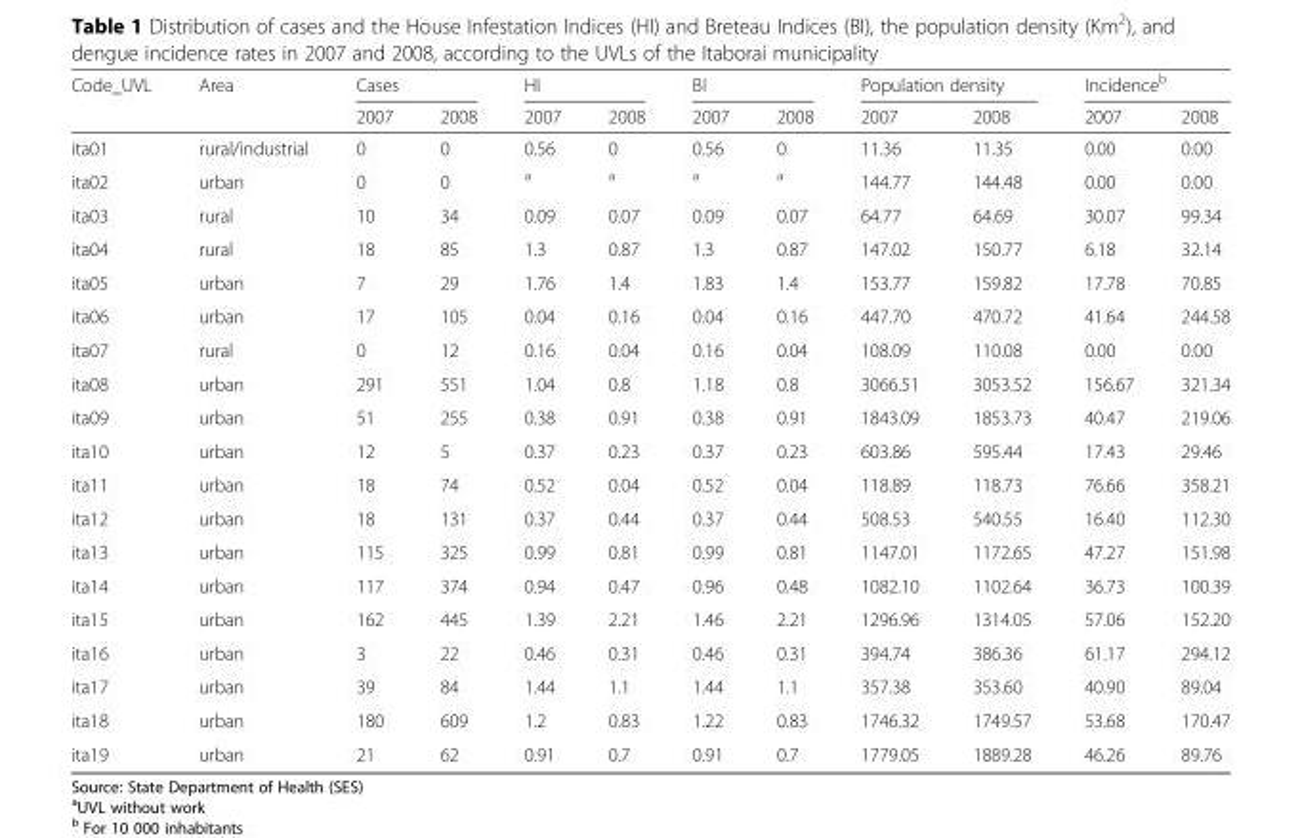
<table><thead><tr><td rowspan="2">Code_UVL</td><td rowspan="2">Area</td><td colspan="2">Cases</td><td colspan="2">HI</td><td colspan="2">BI</td><td colspan="2">Population density</td><td colspan="2">Incidence<sup>b</sup></td></tr><tr><td>2007</td><td>2008</td><td>2007</td><td>2008</td><td>2007</td><td>2008</td><td>2007</td><td>2008</td><td>2007</td><td>2008</td></tr></thead><tbody><tr><td>ita01</td><td>rural/industrial</td><td>0</td><td>0</td><td>0.56</td><td>0</td><td>0.56</td><td>0</td><td>11.36</td><td>11.35</td><td>0.00</td><td>0.00</td></tr><tr><td>ita02</td><td>urban</td><td>0</td><td>0</td><td><sup>a</sup></td><td><sup>a</sup></td><td><sup>a</sup></td><td><sup>a</sup></td><td>144.77</td><td>144.48</td><td>0.00</td><td>0.00</td></tr><tr><td>ita03</td><td>rural</td><td>10</td><td>34</td><td>0.09</td><td>0.07</td><td>0.09</td><td>0.07</td><td>64.77</td><td>64.69</td><td>30.07</td><td>99.34</td></tr><tr><td>ita04</td><td>rural</td><td>18</td><td>85</td><td>1.3</td><td>0.87</td><td>1.3</td><td>0.87</td><td>147.02</td><td>150.77</td><td>6.18</td><td>32.14</td></tr><tr><td>ita05</td><td>urban</td><td>7</td><td>29</td><td>1.76</td><td>1.4</td><td>1.83</td><td>1.4</td><td>153.77</td><td>159.82</td><td>17.78</td><td>70.85</td></tr><tr><td>ita06</td><td>urban</td><td>17</td><td>105</td><td>0.04</td><td>0.16</td><td>0.04</td><td>0.16</td><td>447.70</td><td>470.72</td><td>41.64</td><td>244.58</td></tr><tr><td>ita07</td><td>rural</td><td>0</td><td>12</td><td>0.16</td><td>0.04</td><td>0.16</td><td>0.04</td><td>108.09</td><td>110.08</td><td>0.00</td><td>0.00</td></tr><tr><td>ita08</td><td>urban</td><td>291</td><td>551</td><td>1.04</td><td>0.8</td><td>1.18</td><td>0.8</td><td>3066.51</td><td>3053.52</td><td>156.67</td><td>321.34</td></tr><tr><td>ita09</td><td>urban</td><td>51</td><td>255</td><td>0.38</td><td>0.91</td><td>0.38</td><td>0.91</td><td>1843.09</td><td>1853.73</td><td>40.47</td><td>219.06</td></tr><tr><td>ita10</td><td>urban</td><td>12</td><td>5</td><td>0.37</td><td>0.23</td><td>0.37</td><td>0.23</td><td>603.86</td><td>595.44</td><td>17.43</td><td>29.46</td></tr><tr><td>ita11</td><td>urban</td><td>18</td><td>74</td><td>0.52</td><td>0.04</td><td>0.52</td><td>0.04</td><td>118.89</td><td>118.73</td><td>76.66</td><td>358.21</td></tr><tr><td>ita12</td><td>urban</td><td>18</td><td>131</td><td>0.37</td><td>0.44</td><td>0.37</td><td>0.44</td><td>508.53</td><td>540.55</td><td>16.40</td><td>112.30</td></tr><tr><td>ita13</td><td>urban</td><td>115</td><td>325</td><td>0.99</td><td>0.81</td><td>0.99</td><td>0.81</td><td>1147.01</td><td>1172.65</td><td>47.27</td><td>151.98</td></tr><tr><td>ita14</td><td>urban</td><td>117</td><td>374</td><td>0.94</td><td>0.47</td><td>0.96</td><td>0.48</td><td>1082.10</td><td>1102.64</td><td>36.73</td><td>100.39</td></tr><tr><td>ita15</td><td>urban</td><td>162</td><td>445</td><td>1.39</td><td>2.21</td><td>1.46</td><td>2.21</td><td>1296.96</td><td>1314.05</td><td>57.06</td><td>152.20</td></tr><tr><td>ita16</td><td>urban</td><td>3</td><td>22</td><td>0.46</td><td>0.31</td><td>0.46</td><td>0.31</td><td>394.74</td><td>386.36</td><td>61.17</td><td>294.12</td></tr><tr><td>ita17</td><td>urban</td><td>39</td><td>84</td><td>1.44</td><td>1.1</td><td>1.44</td><td>1.1</td><td>357.38</td><td>353.60</td><td>40.90</td><td>89.04</td></tr><tr><td>ita18</td><td>urban</td><td>180</td><td>609</td><td>1.2</td><td>0.83</td><td>1.22</td><td>0.83</td><td>1746.32</td><td>1749.57</td><td>53.68</td><td>170.47</td></tr><tr><td>ita19</td><td>urban</td><td>21</td><td>62</td><td>0.91</td><td>0.7</td><td>0.91</td><td>0.7</td><td>1779.05</td><td>1889.28</td><td>46.26</td><td>89.76</td></tr></tbody></table>